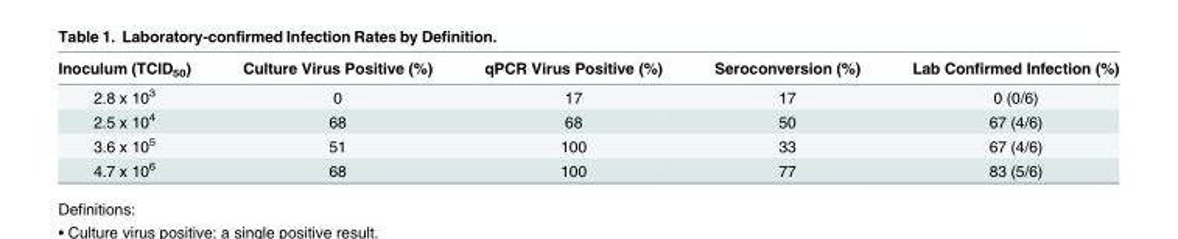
<table><thead><tr><td>Inoculum (TCID<sub>50</sub>)</td><td>Culture Virus Positive (%)</td><td>qPCR Virus Positive (%)</td><td>Seroconversion (%)</td><td>Lab Confirmed Infection (%)</td></tr></thead><tbody><tr><td>2.8 x 10<sup>3</sup></td><td>0</td><td>17</td><td>17</td><td>0 (0/6)</td></tr><tr><td>2.5 x 10<sup>4</sup></td><td>68</td><td>68</td><td>50</td><td>67 (4/6)</td></tr><tr><td>3.6 x 10<sup>5</sup></td><td>51</td><td>100</td><td>33</td><td>67 (4/6)</td></tr><tr><td>4.7 x 10<sup>6</sup></td><td>68</td><td>100</td><td>77</td><td>83 (5/6)</td></tr></tbody></table>